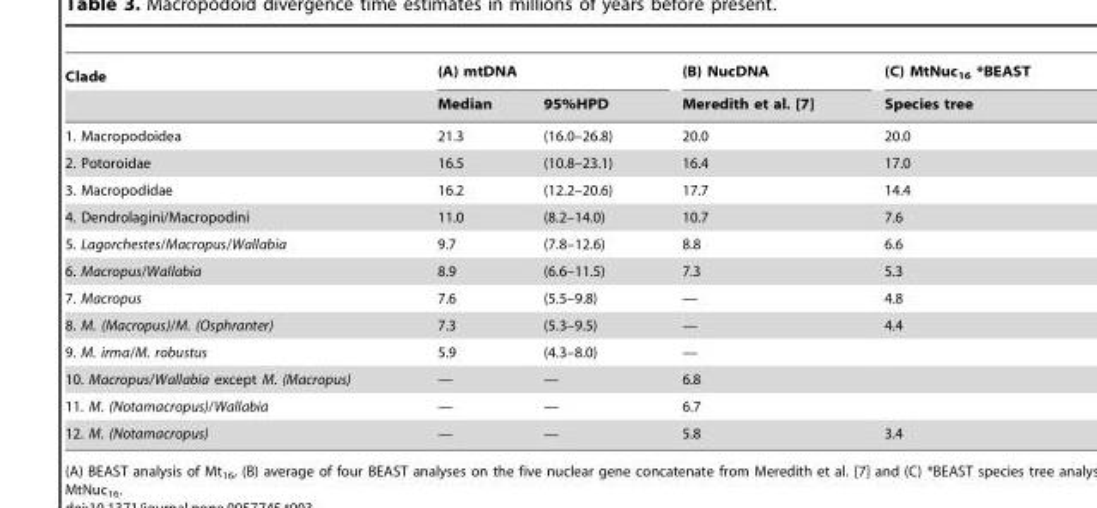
<table><thead><tr><td rowspan="2">Clade</td><td colspan="2">(A) mtDNA</td><td rowspan="2">(B) NucDNA Meredith et al. [7]</td><td rowspan="2">(C) MtNuc<sub>16</sub> *BEAST Species tree</td></tr><tr><td>Median</td><td>95%HPD</td></tr></thead><tbody><tr><td>1. Macropodoidea</td><td>21.3</td><td>(16.0–26.8)</td><td>20.0</td><td>20.0</td></tr><tr><td>2. Potoroidae</td><td>16.5</td><td>(10.8–23.1)</td><td>16.4</td><td>17.0</td></tr><tr><td>3. Macropodidae</td><td>16.2</td><td>(12.2–20.6)</td><td>17.7</td><td>14.4</td></tr><tr><td>4. Dendrolagini/Macropodini</td><td>11.0</td><td>(8.2–14.0)</td><td>10.7</td><td>7.6</td></tr><tr><td>5. Lagorchestes/Macropus/Wallabia</td><td>9.7</td><td>(7.8–12.6)</td><td>8.8</td><td>6.6</td></tr><tr><td>6. Macropus/Wallabia</td><td>8.9</td><td>(6.6–11.5)</td><td>7.3</td><td>5.3</td></tr><tr><td>7. Macropus</td><td>7.6</td><td>(5.5–9.8)</td><td>—</td><td>4.8</td></tr><tr><td>8. M. (Macropus)/M. (Osphranter)</td><td>7.3</td><td>(5.3–9.5)</td><td>—</td><td>4.4</td></tr><tr><td>9. M. irma/M. robustus</td><td>5.9</td><td>(4.3–8.0)</td><td>—</td><td></td></tr><tr><td>10. Macropus/Wallabia except M. (Macropus)</td><td>—</td><td>—</td><td>6.8</td><td></td></tr><tr><td>11. M. (Notamacropus)/Wallabia</td><td>—</td><td>—</td><td>6.7</td><td></td></tr><tr><td>12. M. (Notamacropus)</td><td>—</td><td>—</td><td>5.8</td><td>3.4</td></tr></tbody></table>